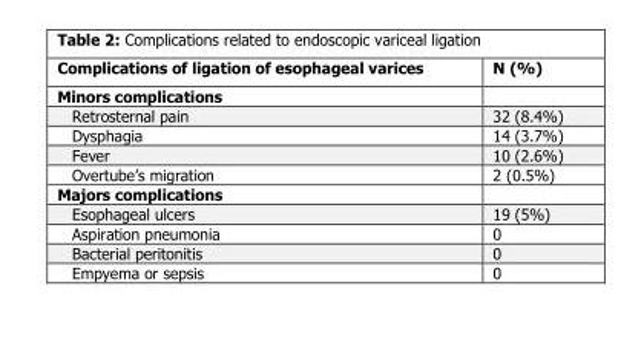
<table><thead><tr><td>Complications of ligation of esophageal varices</td><td>N (%)</td></tr></thead><tbody><tr><td colspan="2">Minors complications</td></tr><tr><td>Retrosternal pain</td><td>32 (8.4%)</td></tr><tr><td>Dysphagia</td><td>14 (3.7%)</td></tr><tr><td>Fever</td><td>10 (2.6%)</td></tr><tr><td>Overtube’s migration</td><td>2 (0.5%)</td></tr><tr><td colspan="2">Majors complications</td></tr><tr><td>Esophageal ulcers</td><td>19 (5%)</td></tr><tr><td>Aspiration pneumonia</td><td>0</td></tr><tr><td>Bacterial peritonitis</td><td>0</td></tr><tr><td>Empyema or sepsis</td><td>0</td></tr></tbody></table>